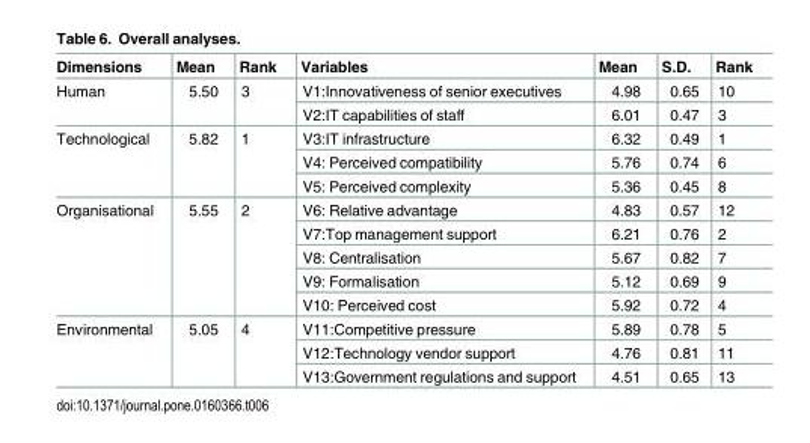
<table><thead><tr><td>Dimensions</td><td>Mean</td><td>Rank</td><td>Variables</td><td>Mean</td><td>S.D.</td><td>Rank</td></tr></thead><tbody><tr><td rowspan="2">Human</td><td rowspan="2">5.50</td><td rowspan="2">3</td><td>V1:Innovativeness of senior executives</td><td>4.98</td><td>0.65</td><td>10</td></tr><tr><td>V2:IT capabilities of staff</td><td>6.01</td><td>0.47</td><td>3</td></tr><tr><td rowspan="3">Technological</td><td rowspan="3">5.82</td><td rowspan="3">1</td><td>V3:IT infrastructure</td><td>6.32</td><td>0.49</td><td>1</td></tr><tr><td>V4: Perceived compatibility</td><td>5.76</td><td>0.74</td><td>6</td></tr><tr><td>V5: Perceived complexity</td><td>5.36</td><td>0.45</td><td>8</td></tr><tr><td rowspan="5">Organisational</td><td rowspan="5">5.55</td><td rowspan="5">2</td><td>V6: Relative advantage</td><td>4.83</td><td>0.57</td><td>12</td></tr><tr><td>V7:Top management support</td><td>6.21</td><td>0.76</td><td>2</td></tr><tr><td>V8: Centralisation</td><td>5.67</td><td>0.82</td><td>7</td></tr><tr><td>V9: Formalisation</td><td>5.12</td><td>0.69</td><td>9</td></tr><tr><td>V10: Perceived cost</td><td>5.92</td><td>0.72</td><td>4</td></tr><tr><td rowspan="3">Environmental</td><td rowspan="3">5.05</td><td rowspan="3">4</td><td>V11:Competitive pressure</td><td>5.89</td><td>0.78</td><td>5</td></tr><tr><td>V12:Technology vendor support</td><td>4.76</td><td>0.81</td><td>11</td></tr><tr><td>V13:Government regulations and support</td><td>4.51</td><td>0.65</td><td>13</td></tr></tbody></table>